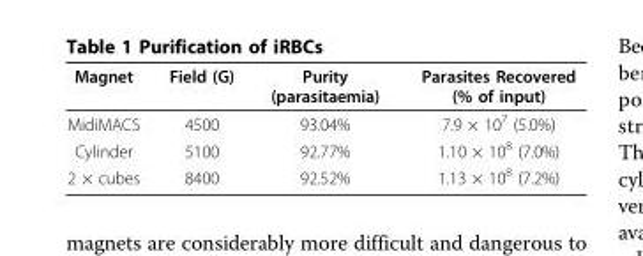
<table><thead><tr><td>Magnet</td><td>Field (G)</td><td>Purity (parasitaemia)</td><td>Parasites Recovered (% of input)</td></tr></thead><tbody><tr><td>MidiMACS</td><td>4500</td><td>93.04%</td><td>7.9 × 10<sup>7</sup> (5.0%)</td></tr><tr><td>Cylinder</td><td>5100</td><td>92.77%</td><td>1.10 × 10<sup>8</sup> (7.0%)</td></tr><tr><td>2 × cubes</td><td>8400</td><td>92.52%</td><td>1.13 × 10<sup>8</sup> (7.2%)</td></tr></tbody></table>